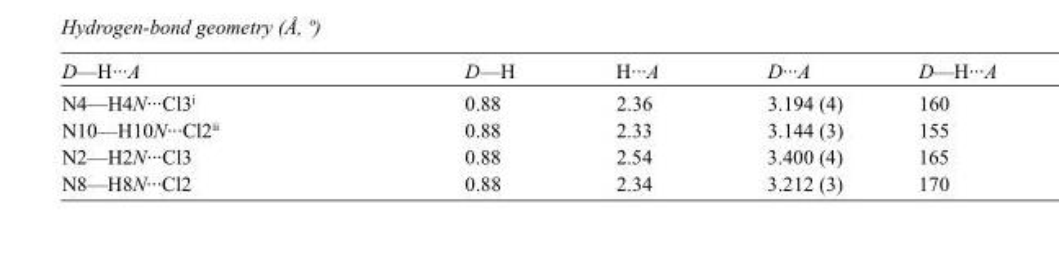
<table><tbody><tr><td>D—H···A</td><td>D—H</td><td>H···A</td><td>D···A</td><td>D—H···A</td></tr><tr><td>N4—H4N···Cl3<sup>i</sup></td><td>0.88</td><td>2.36</td><td>3.194 (4)</td><td>160</td></tr><tr><td>N10—H10N···Cl2<sup>ii</sup></td><td>0.88</td><td>2.33</td><td>3.144 (3)</td><td>155</td></tr><tr><td>N2—H2N···Cl3</td><td>0.88</td><td>2.54</td><td>3.400 (4)</td><td>165</td></tr><tr><td>N8—H8N···Cl2</td><td>0.88</td><td>2.34</td><td>3.212 (3)</td><td>170</td></tr></tbody></table>